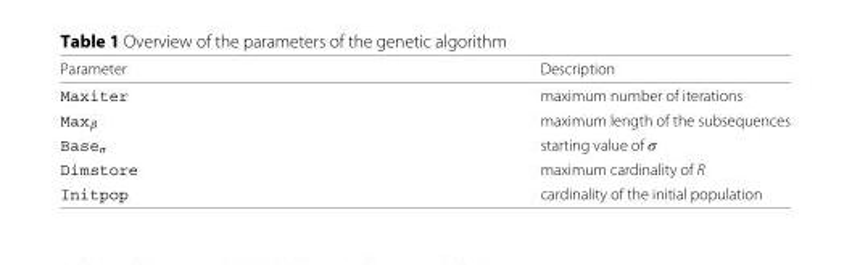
<table><thead><tr><td>Parameter</td><td>Description</td></tr></thead><tbody><tr><td>Maxiter</td><td>maximum number of iterations</td></tr><tr><td>Max<sub>β</sub></td><td>maximum length of the subsequences</td></tr><tr><td>Base<sub>σ</sub></td><td>starting value of σ</td></tr><tr><td>Dimstore</td><td>maximum cardinality of R</td></tr><tr><td>Initpop</td><td>cardinality of the initial population</td></tr></tbody></table>